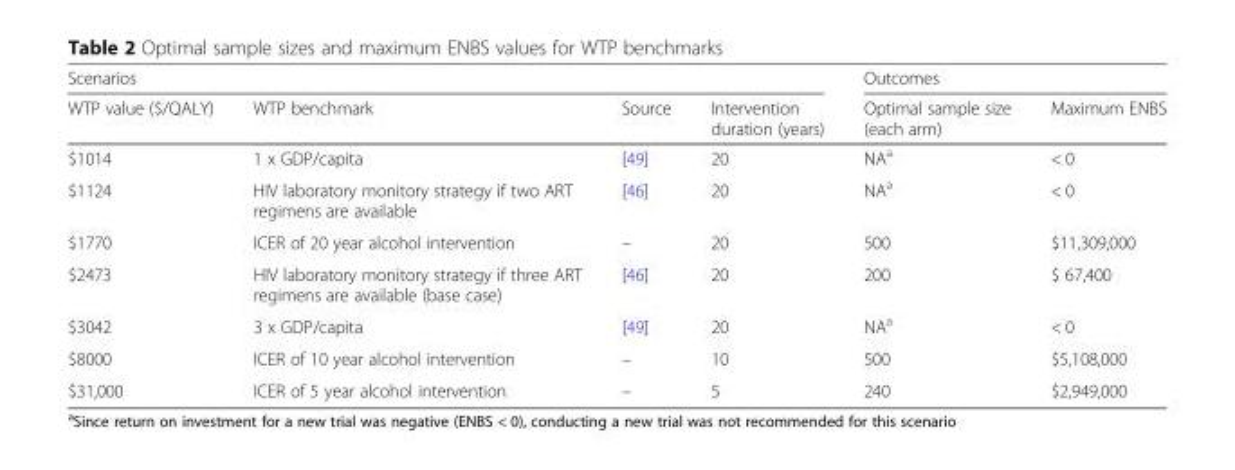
<table><thead><tr><td colspan="4">Scenarios</td><td colspan="2">Outcomes</td></tr><tr><td>WTP value ($/QALY)</td><td>WTP benchmark</td><td>Source</td><td>Intervention duration (years)</td><td>Optimal sample size (each arm)</td><td>Maximum ENBS</td></tr></thead><tbody><tr><td>$1014</td><td>1 x GDP/capita</td><td>[49]</td><td>20</td><td>NA<sup>a</sup></td><td>&lt; 0</td></tr><tr><td>$1124</td><td>HIV laboratory monitory strategy if two ART regimens are available</td><td>[46]</td><td>20</td><td>NA<sup>a</sup></td><td>&lt; 0</td></tr><tr><td>$1770</td><td>ICER of 20 year alcohol intervention</td><td>–</td><td>20</td><td>500</td><td>$11,309,000</td></tr><tr><td>$2473</td><td>HIV laboratory monitory strategy if three ART regimens are available (base case)</td><td>[46]</td><td>20</td><td>200</td><td>$ 67,400</td></tr><tr><td>$3042</td><td>3 x GDP/capita</td><td>[49]</td><td>20</td><td>NA<sup>a</sup></td><td>&lt; 0</td></tr><tr><td>$8000</td><td>ICER of 10 year alcohol intervention</td><td>–</td><td>10</td><td>500</td><td>$5,108,000</td></tr><tr><td>$31,000</td><td>ICER of 5 year alcohol intervention</td><td>–</td><td>5</td><td>240</td><td>$2,949,000</td></tr></tbody></table>